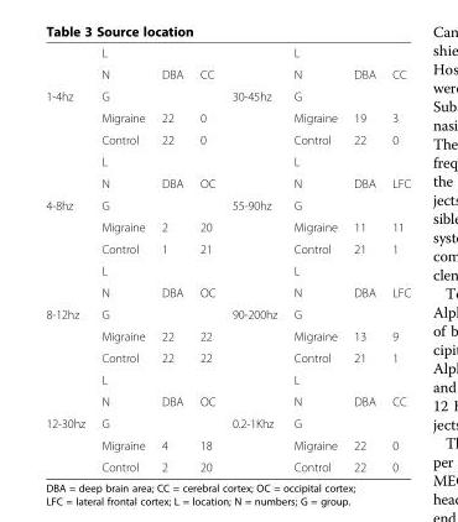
<table><tbody><tr><td rowspan="5">1-4hz</td><td>L</td><td rowspan="3">DBA</td><td rowspan="3">CC</td><td rowspan="5">30-45hz</td><td>L</td><td rowspan="3">DBA</td><td rowspan="3">CC</td></tr><tr><td>N</td><td>N</td></tr><tr><td>G</td><td>G</td></tr><tr><td>Migraine</td><td>22</td><td>0</td><td>Migraine</td><td>19</td><td>3</td></tr><tr><td>Control</td><td>22</td><td>0</td><td>Control</td><td>22</td><td>0</td></tr><tr><td rowspan="5">4-8hz</td><td>L</td><td rowspan="3">DBA</td><td rowspan="3">OC</td><td rowspan="5">55-90hz</td><td>L</td><td rowspan="3">DBA</td><td rowspan="3">LFC</td></tr><tr><td>N</td><td>N</td></tr><tr><td>G</td><td>G</td></tr><tr><td>Migraine</td><td>2</td><td>20</td><td>Migraine</td><td>11</td><td>11</td></tr><tr><td>Control</td><td>1</td><td>21</td><td>Control</td><td>21</td><td>1</td></tr><tr><td rowspan="5">8-12hz</td><td>L</td><td rowspan="3">DBA</td><td rowspan="3">OC</td><td rowspan="5">90-200hz</td><td>L</td><td rowspan="3">DBA</td><td rowspan="3">LFC</td></tr><tr><td>N</td><td>N</td></tr><tr><td>G</td><td>G</td></tr><tr><td>Migraine</td><td>22</td><td>22</td><td>Migraine</td><td>13</td><td>9</td></tr><tr><td>Control</td><td>22</td><td>22</td><td>Control</td><td>21</td><td>1</td></tr><tr><td rowspan="5">12-30hz</td><td>L</td><td rowspan="3">DBA</td><td rowspan="3">OC</td><td rowspan="5">0.2-1Khz</td><td>L</td><td rowspan="3">DBA</td><td rowspan="3">CC</td></tr><tr><td>N</td><td>N</td></tr><tr><td>G</td><td>G</td></tr><tr><td>Migraine</td><td>4</td><td>18</td><td>Migraine</td><td>22</td><td>0</td></tr><tr><td>Control</td><td>2</td><td>20</td><td>Control</td><td>22</td><td>0</td></tr></tbody></table>